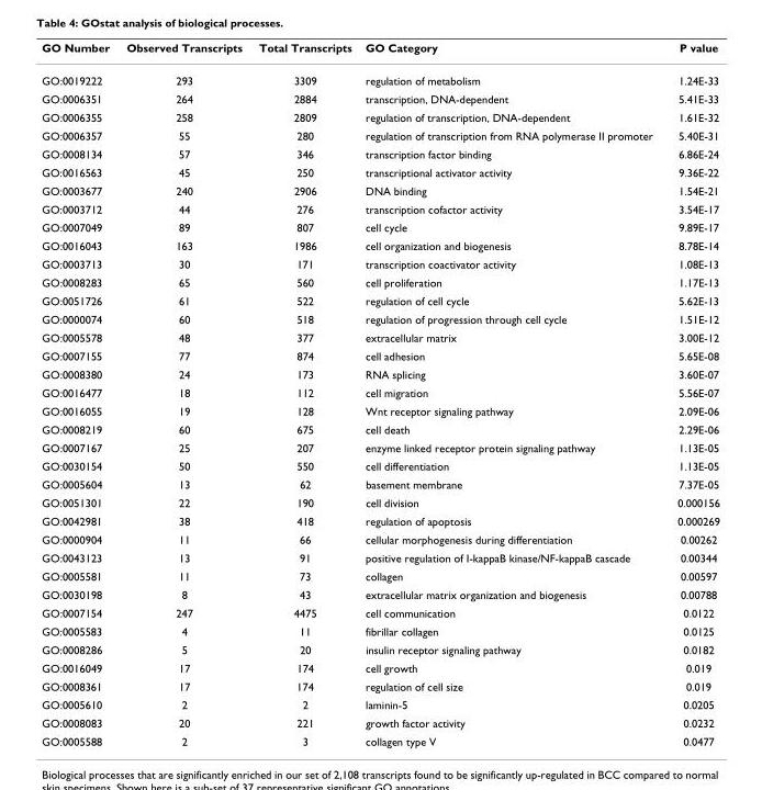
<table><thead><tr><td>GO Number</td><td>Observed Transcripts</td><td>Total Transcripts</td><td>GO Category</td><td>P value</td></tr></thead><tbody><tr><td>GO:0019222</td><td>293</td><td>3309</td><td>regulation of metabolism</td><td>1.24E-33</td></tr><tr><td>GO:0006351</td><td>264</td><td>2884</td><td>transcription, DNA-dependent</td><td>5.41E-33</td></tr><tr><td>GO:0006355</td><td>258</td><td>2809</td><td>regulation of transcription, DNA-dependent</td><td>1.61E-32</td></tr><tr><td>GO:0006357</td><td>55</td><td>280</td><td>regulation of transcription from RNA polymerase II promoter</td><td>5.40E-31</td></tr><tr><td>GO:0008134</td><td>57</td><td>346</td><td>transcription factor binding</td><td>6.86E-24</td></tr><tr><td>GO:0016563</td><td>45</td><td>250</td><td>transcriptional activator activity</td><td>9.36E-22</td></tr><tr><td>GO:0003677</td><td>240</td><td>2906</td><td>DNA binding</td><td>1.54E-21</td></tr><tr><td>GO:0003712</td><td>44</td><td>276</td><td>transcription cofactor activity</td><td>3.54E-17</td></tr><tr><td>GO:0007049</td><td>89</td><td>807</td><td>cell cycle</td><td>9.89E-17</td></tr><tr><td>GO:0016043</td><td>163</td><td>1986</td><td>cell organization and biogenesis</td><td>8.78E-14</td></tr><tr><td>GO:0003713</td><td>30</td><td>171</td><td>transcription coactivator activity</td><td>1.08E-13</td></tr><tr><td>GO:0008283</td><td>65</td><td>560</td><td>cell proliferation</td><td>1.17E-13</td></tr><tr><td>GO:0051726</td><td>61</td><td>522</td><td>regulation of cell cycle</td><td>5.62E-13</td></tr><tr><td>GO:0000074</td><td>60</td><td>518</td><td>regulation of progression through cell cycle</td><td>1.51E-12</td></tr><tr><td>GO:0005578</td><td>48</td><td>377</td><td>extracellular matrix</td><td>3.00E-12</td></tr><tr><td>GO:0007155</td><td>77</td><td>874</td><td>cell adhesion</td><td>5.65E-08</td></tr><tr><td>GO:0008380</td><td>24</td><td>173</td><td>RNA splicing</td><td>3.60E-07</td></tr><tr><td>GO:0016477</td><td>18</td><td>112</td><td>cell migration</td><td>5.56E-07</td></tr><tr><td>GO:0016055</td><td>19</td><td>128</td><td>Wnt receptor signaling pathway</td><td>2.09E-06</td></tr><tr><td>GO:0008219</td><td>60</td><td>675</td><td>cell death</td><td>2.29E-06</td></tr><tr><td>GO:0007167</td><td>25</td><td>207</td><td>enzyme linked receptor protein signaling pathway</td><td>1.13E-05</td></tr><tr><td>GO:0030154</td><td>50</td><td>550</td><td>cell differentiation</td><td>1.13E-05</td></tr><tr><td>GO:0005604</td><td>13</td><td>62</td><td>basement membrane</td><td>7.37E-05</td></tr><tr><td>GO:0051301</td><td>22</td><td>190</td><td>cell division</td><td>0.000156</td></tr><tr><td>GO:0042981</td><td>38</td><td>418</td><td>regulation of apoptosis</td><td>0.000269</td></tr><tr><td>GO:0000904</td><td>11</td><td>66</td><td>cellular morphogenesis during differentiation</td><td>0.00262</td></tr><tr><td>GO:0043123</td><td>13</td><td>91</td><td>positive regulation of I-kappaB kinase/NF-kappaB cascade</td><td>0.00344</td></tr><tr><td>GO:0005581</td><td>11</td><td>73</td><td>collagen</td><td>0.00597</td></tr><tr><td>GO:0030198</td><td>8</td><td>43</td><td>extracellular matrix organization and biogenesis</td><td>0.00788</td></tr><tr><td>GO:0007154</td><td>247</td><td>4475</td><td>cell communication</td><td>0.0122</td></tr><tr><td>GO:0005583</td><td>4</td><td>11</td><td>fibrillar collagen</td><td>0.0125</td></tr><tr><td>GO:0008286</td><td>5</td><td>20</td><td>insulin receptor signaling pathway</td><td>0.0182</td></tr><tr><td>GO:0016049</td><td>17</td><td>174</td><td>cell growth</td><td>0.019</td></tr><tr><td>GO:0008361</td><td>17</td><td>174</td><td>regulation of cell size</td><td>0.019</td></tr><tr><td>GO:0005610</td><td>2</td><td>2</td><td>laminin-5</td><td>0.0205</td></tr><tr><td>GO:0008083</td><td>20</td><td>221</td><td>growth factor activity</td><td>0.0232</td></tr><tr><td>GO:0005588</td><td>2</td><td>3</td><td>collagen type V</td><td>0.0477</td></tr></tbody></table>